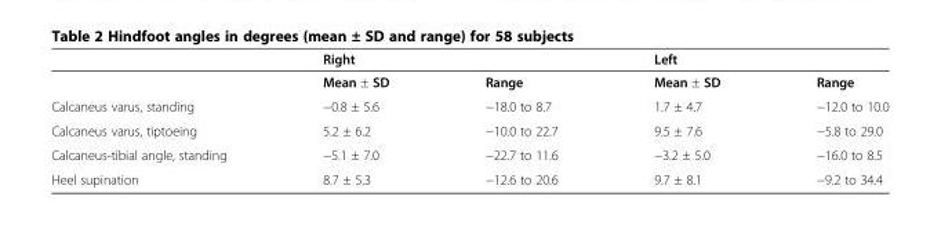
<table><thead><tr><td rowspan="2"></td><td colspan="2">Right</td><td colspan="2">Left</td></tr><tr><td>Mean ± SD</td><td>Range</td><td>Mean ± SD</td><td>Range</td></tr></thead><tbody><tr><td>Calcaneus varus, standing</td><td>−0.8 ± 5.6</td><td>−18.0 to 8.7</td><td>1.7 ± 4.7</td><td>−12.0 to 10.0</td></tr><tr><td>Calcaneus varus, tiptoeing</td><td>5.2 ± 6.2</td><td>−10.0 to 22.7</td><td>9.5 ± 7.6</td><td>−5.8 to 29.0</td></tr><tr><td>Calcaneus-tibial angle, standing</td><td>−5.1 ± 7.0</td><td>−22.7 to 11.6</td><td>−3.2 ± 5.0</td><td>−16.0 to 8.5</td></tr><tr><td>Heel supination</td><td>8.7 ± 5.3</td><td>−12.6 to 20.6</td><td>9.7 ± 8.1</td><td>−9.2 to 34.4</td></tr></tbody></table>